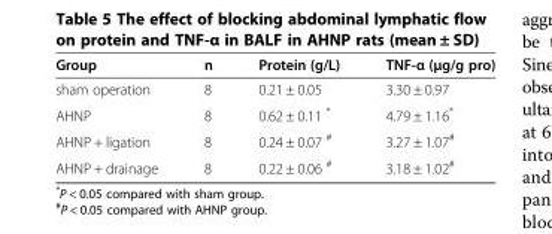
<table><thead><tr><td>Group</td><td>n</td><td>Protein (g/L)</td><td>TNF-α (μg/g pro)</td></tr></thead><tbody><tr><td>sham operation</td><td>8</td><td>0.21 ± 0.05</td><td>3.30 ± 0.97</td></tr><tr><td>AHNP</td><td>8</td><td>0.62 ± 0.11 *</td><td>4.79 ± 1.16*</td></tr><tr><td>AHNP + ligation</td><td>8</td><td>0.24 ± 0.07 <sup>#</sup></td><td>3.27 ± 1.07<sup>#</sup></td></tr><tr><td>AHNP + drainage</td><td>8</td><td>0.22 ± 0.06 <sup>#</sup></td><td>3.18 ± 1.02<sup>#</sup></td></tr></tbody></table>